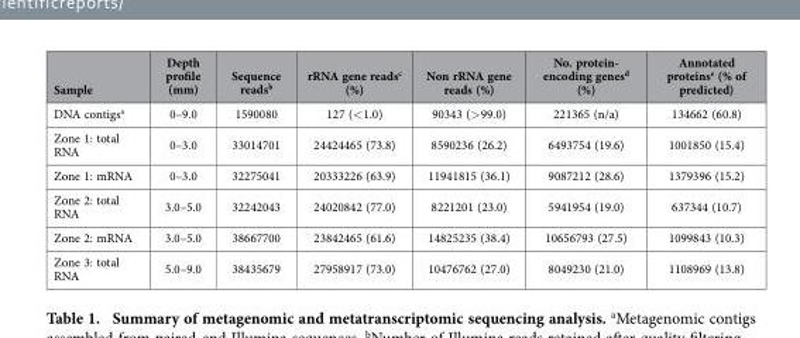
<table><thead><tr><td>Sample</td><td>Depth profile (mm)</td><td>Sequence reads<sup>b</sup></td><td>rRNA gene reads<sup>c</sup> (%)</td><td>Non rRNA gene reads (%)</td><td>No. protein- encoding genes<sup>d</sup> (%)</td><td>Annotated proteins<sup>e</sup> (% of predicted)</td></tr></thead><tbody><tr><td>DNA contigs<sup>a</sup></td><td>0–9.0</td><td>1590080</td><td>127 (&lt; 1.0)</td><td>90343 (&gt; 99.0)</td><td>221365 (n/a)</td><td>134662 (60.8)</td></tr><tr><td>Zone 1: total RNA</td><td>0–3.0</td><td>33014701</td><td>24424465 (73.8)</td><td>8590236 (26.2)</td><td>6493754 (19.6)</td><td>1001850 (15.4)</td></tr><tr><td>Zone 1: mRNA</td><td>0–3.0</td><td>32275041</td><td>20333226 (63.9)</td><td>11941815 (36.1)</td><td>9087212 (28.6)</td><td>1379396 (15.2)</td></tr><tr><td>Zone 2: total RNA</td><td>3.0–5.0</td><td>32242043</td><td>24020842 (77.0)</td><td>8221201 (23.0)</td><td>5941954 (19.0)</td><td>637344 (10.7)</td></tr><tr><td>Zone 2: mRNA</td><td>3.0–5.0</td><td>38667700</td><td>23842465 (61.6)</td><td>14825235 (38.4)</td><td>10656793 (27.5)</td><td>1099843 (10.3)</td></tr><tr><td>Zone 3: total RNA</td><td>5.0–9.0</td><td>38435679</td><td>27958917 (73.0)</td><td>10476762 (27.0)</td><td>8049230 (21.0)</td><td>1108969 (13.8)</td></tr></tbody></table>